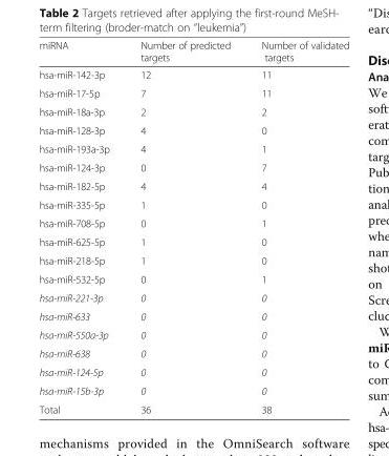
<table><thead><tr><td>miRNA</td><td>Number of predicted targets</td><td>Number of validated targets</td></tr></thead><tbody><tr><td>hsa-miR-142-3p</td><td>12</td><td>11</td></tr><tr><td>hsa-miR-17-5p</td><td>7</td><td>11</td></tr><tr><td>hsa-miR-18a-3p</td><td>2</td><td>2</td></tr><tr><td>hsa-miR-128-3p</td><td>4</td><td>0</td></tr><tr><td>hsa-miR-193a-3p</td><td>4</td><td>1</td></tr><tr><td>hsa-miR-124-3p</td><td>0</td><td>7</td></tr><tr><td>hsa-miR-182-5p</td><td>4</td><td>4</td></tr><tr><td>hsa-miR-335-5p</td><td>1</td><td>0</td></tr><tr><td>hsa-miR-708-5p</td><td>0</td><td>1</td></tr><tr><td>hsa-miR-625-5p</td><td>1</td><td>0</td></tr><tr><td>hsa-miR-218-5p</td><td>1</td><td>0</td></tr><tr><td>hsa-miR-532-5p</td><td>0</td><td>1</td></tr><tr><td>hsa-miR-221-3p</td><td>0</td><td>0</td></tr><tr><td>hsa-miR-633</td><td>0</td><td>0</td></tr><tr><td>hsa-miR-550a-3p</td><td>0</td><td>0</td></tr><tr><td>hsa-miR-638</td><td>0</td><td>0</td></tr><tr><td>hsa-miR-124-5p</td><td>0</td><td>0</td></tr><tr><td>hsa-miR-15b-3p</td><td>0</td><td>0</td></tr><tr><td>Total</td><td>36</td><td>38</td></tr></tbody></table>